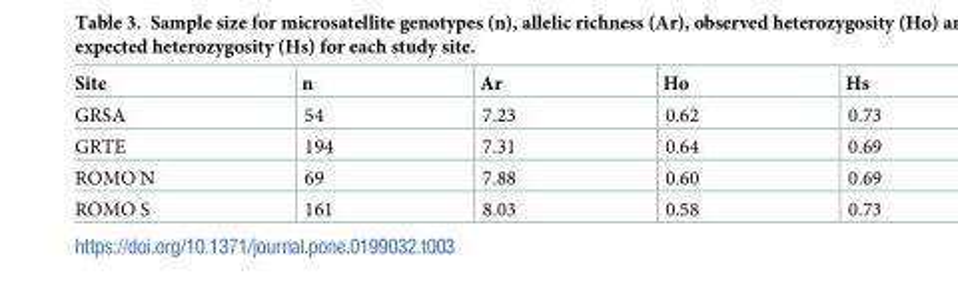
<table><thead><tr><td>Site</td><td>n</td><td>Ar</td><td>Ho</td><td>Hs</td></tr></thead><tbody><tr><td>GRSA</td><td>54</td><td>7.23</td><td>0.62</td><td>0.73</td></tr><tr><td>GRTE</td><td>194</td><td>7.31</td><td>0.64</td><td>0.69</td></tr><tr><td>ROMO N</td><td>69</td><td>7.88</td><td>0.60</td><td>0.69</td></tr><tr><td>ROMO S</td><td>161</td><td>8.03</td><td>0.58</td><td>0.73</td></tr></tbody></table>